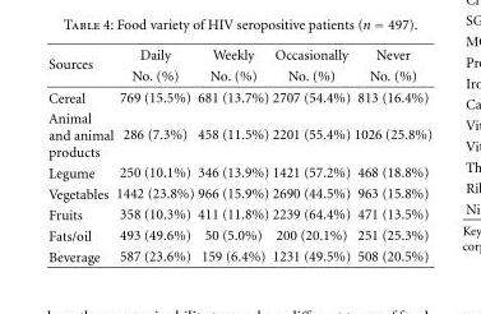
<table><thead><tr><td rowspan="2">Sources</td><td rowspan="2">Daily No. (%)</td><td rowspan="2">Weekly No. (%)</td><td rowspan="2">Occasionally No. (%)</td><td rowspan="2">Never No. (%)</td></tr><tr></tr></thead><tbody><tr><td>Cereal</td><td>769 (15.5%)</td><td>681 (13.7%)</td><td>2707 (54.4%)</td><td>813 (16.4%)</td></tr><tr><td>Animal and animal products</td><td>286 (7.3%)</td><td>458 (11.5%)</td><td>2201 (55.4%)</td><td>1026 (25.8%)</td></tr><tr><td>Legume</td><td>250 (10.1%)</td><td>346 (13.9%)</td><td>1421 (57.2%)</td><td>468 (18.8%)</td></tr><tr><td>Vegetables</td><td>1442 (23.8%)</td><td>966 (15.9%)</td><td>2690 (44.5%)</td><td>963 (15.8%)</td></tr><tr><td>Fruits</td><td>358 (10.3%)</td><td>411 (11.8%)</td><td>2239 (64.4%)</td><td>471 (13.5%)</td></tr><tr><td>Fats/oil</td><td>493 (49.6%)</td><td>50 (5.0%)</td><td>200 (20.1%)</td><td>251 (25.3%)</td></tr><tr><td>Beverage</td><td>587 (23.6%)</td><td>159 (6.4%)</td><td>1231 (49.5%)</td><td>508 (20.5%)</td></tr></tbody></table>